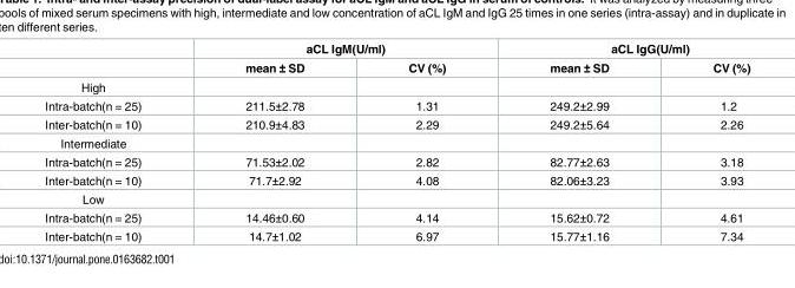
<table><thead><tr><td rowspan="2"></td><td colspan="2">aCL IgM(U/ml)</td><td colspan="2">aCL IgG(U/ml)</td></tr><tr><td>mean ± SD</td><td>CV (%)</td><td>mean ± SD</td><td>CV (%)</td></tr></thead><tbody><tr><td colspan="5">High</td></tr><tr><td>Intra-batch(n = 25)</td><td>211.5±2.78</td><td>1.31</td><td>249.2±2.99</td><td>1.2</td></tr><tr><td>Inter-batch(n = 10)</td><td>210.9±4.83</td><td>2.29</td><td>249.2±5.64</td><td>2.26</td></tr><tr><td colspan="5">Intermediate</td></tr><tr><td>Intra-batch(n = 25)</td><td>71.53±2.02</td><td>2.82</td><td>82.77±2.63</td><td>3.18</td></tr><tr><td>Inter-batch(n = 10)</td><td>71.7±2.92</td><td>4.08</td><td>82.06±3.23</td><td>3.93</td></tr><tr><td colspan="5">Low</td></tr><tr><td>Intra-batch(n = 25)</td><td>14.46±0.60</td><td>4.14</td><td>15.62±0.72</td><td>4.61</td></tr><tr><td>Inter-batch(n = 10)</td><td>14.7±1.02</td><td>6.97</td><td>15.77±1.16</td><td>7.34</td></tr></tbody></table>